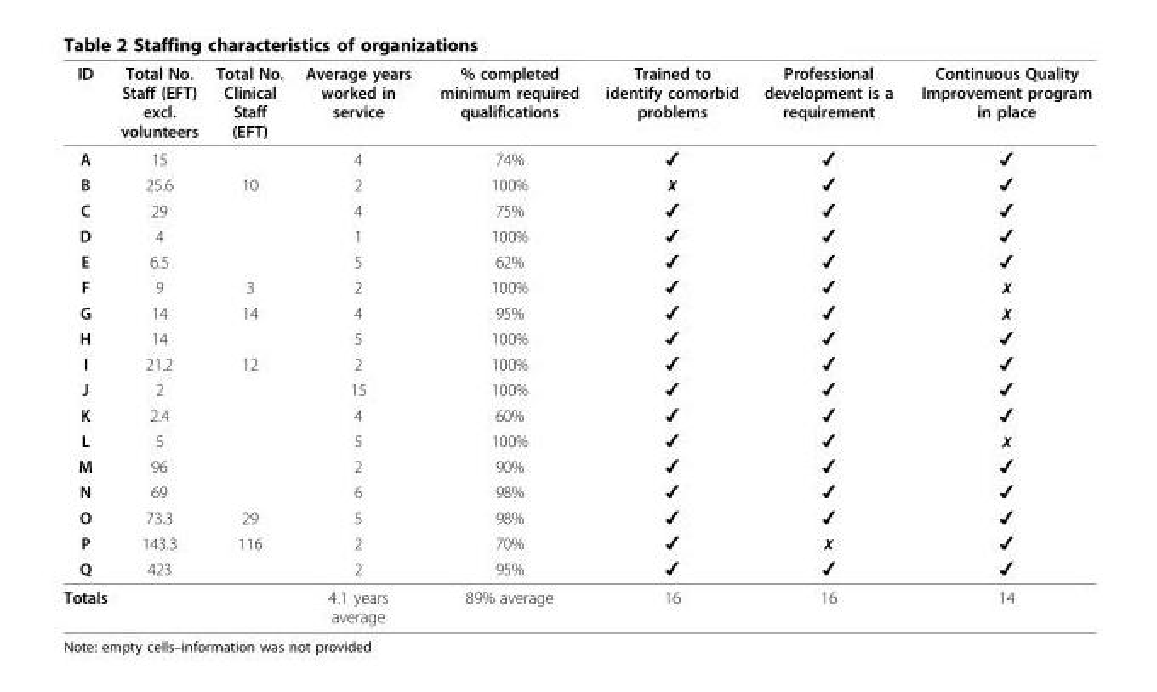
<table><thead><tr><td>ID</td><td>Total No. Staff (EFT) excl. volunteers</td><td>Total No. Clinical Staff (EFT)</td><td>Average years worked in service</td><td>% completed minimum required qualifications</td><td>Trained to identify comorbid problems</td><td>Professional development is a requirement</td><td>Continuous Quality Improvement program in place</td></tr></thead><tbody><tr><td>A</td><td>15</td><td></td><td>4</td><td>74%</td><td>✔</td><td>✔</td><td>✔</td></tr><tr><td>B</td><td>25.6</td><td>10</td><td>2</td><td>100%</td><td>✗</td><td>✔</td><td>✔</td></tr><tr><td>C</td><td>29</td><td></td><td>4</td><td>75%</td><td>✔</td><td>✔</td><td>✔</td></tr><tr><td>D</td><td>4</td><td></td><td>1</td><td>100%</td><td>✔</td><td>✔</td><td>✔</td></tr><tr><td>E</td><td>6.5</td><td></td><td>5</td><td>62%</td><td>✔</td><td>✔</td><td>✔</td></tr><tr><td>F</td><td>9</td><td>3</td><td>2</td><td>100%</td><td>✔</td><td>✔</td><td>✗</td></tr><tr><td>G</td><td>14</td><td>14</td><td>4</td><td>95%</td><td>✔</td><td>✔</td><td>✗</td></tr><tr><td>H</td><td>14</td><td></td><td>5</td><td>100%</td><td>✔</td><td>✔</td><td>✔</td></tr><tr><td>I</td><td>21.2</td><td>12</td><td>2</td><td>100%</td><td>✔</td><td>✔</td><td>✔</td></tr><tr><td>J</td><td>2</td><td></td><td>15</td><td>100%</td><td>✔</td><td>✔</td><td>✔</td></tr><tr><td>K</td><td>2.4</td><td></td><td>4</td><td>60%</td><td>✔</td><td>✔</td><td>✔</td></tr><tr><td>L</td><td>5</td><td></td><td>5</td><td>100%</td><td>✔</td><td>✔</td><td>✗</td></tr><tr><td>M</td><td>96</td><td></td><td>2</td><td>90%</td><td>✔</td><td>✔</td><td>✔</td></tr><tr><td>N</td><td>69</td><td></td><td>6</td><td>98%</td><td>✔</td><td>✔</td><td>✔</td></tr><tr><td>O</td><td>73.3</td><td>29</td><td>5</td><td>98%</td><td>✔</td><td>✔</td><td>✔</td></tr><tr><td>P</td><td>143.3</td><td>116</td><td>2</td><td>70%</td><td>✔</td><td>✗</td><td>✔</td></tr><tr><td>Q</td><td>423</td><td></td><td>2</td><td>95%</td><td>✔</td><td>✔</td><td>✔</td></tr><tr><td>Totals</td><td></td><td></td><td>4.1 years average</td><td>89% average</td><td>16</td><td>16</td><td>14</td></tr></tbody></table>